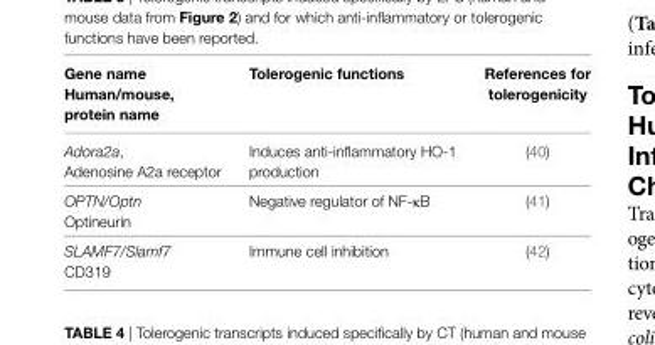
<table><thead><tr><td>Gene name Human/mouse, protein name</td><td>Tolerogenic functions</td><td>References for tolerogenicity</td></tr></thead><tbody><tr><td>Adora2a, Adenosine A2a receptor</td><td>Induces anti-inflammatory HO-1 production</td><td>(40)</td></tr><tr><td>OPTN/Optn Optineurin</td><td>Negative regulator of NF-κB</td><td>(41)</td></tr><tr><td>SLAMF7/Slamf7 CD319</td><td>Immune cell inhibition</td><td>(42)</td></tr></tbody></table>